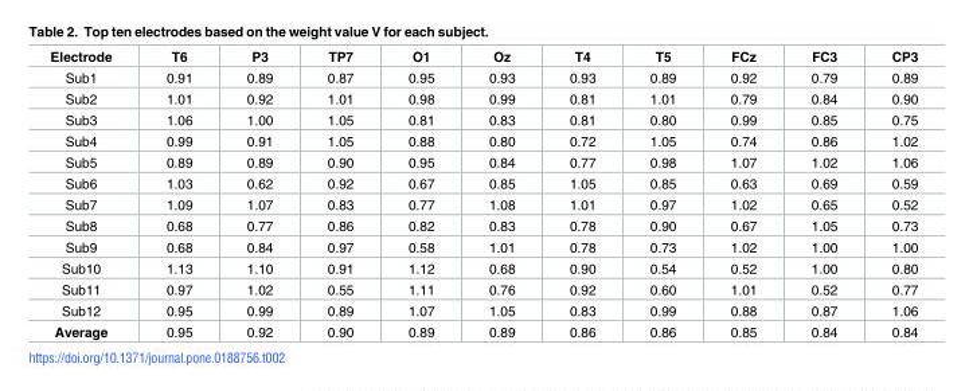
<table><thead><tr><td>Electrode</td><td>T6</td><td>P3</td><td>TP7</td><td>O1</td><td>Oz</td><td>T4</td><td>T5</td><td>FCz</td><td>FC3</td><td>CP3</td></tr></thead><tbody><tr><td>Sub1</td><td>0.91</td><td>0.89</td><td>0.87</td><td>0.95</td><td>0.93</td><td>0.93</td><td>0.89</td><td>0.92</td><td>0.79</td><td>0.89</td></tr><tr><td>Sub2</td><td>1.01</td><td>0.92</td><td>1.01</td><td>0.98</td><td>0.99</td><td>0.81</td><td>1.01</td><td>0.79</td><td>0.84</td><td>0.90</td></tr><tr><td>Sub3</td><td>1.06</td><td>1.00</td><td>1.05</td><td>0.81</td><td>0.83</td><td>0.81</td><td>0.80</td><td>0.99</td><td>0.85</td><td>0.75</td></tr><tr><td>Sub4</td><td>0.99</td><td>0.91</td><td>1.05</td><td>0.88</td><td>0.80</td><td>0.72</td><td>1.05</td><td>0.74</td><td>0.86</td><td>1.02</td></tr><tr><td>Sub5</td><td>0.89</td><td>0.89</td><td>0.90</td><td>0.95</td><td>0.84</td><td>0.77</td><td>0.98</td><td>1.07</td><td>1.02</td><td>1.06</td></tr><tr><td>Sub6</td><td>1.03</td><td>0.62</td><td>0.92</td><td>0.67</td><td>0.85</td><td>1.05</td><td>0.85</td><td>0.63</td><td>0.69</td><td>0.59</td></tr><tr><td>Sub7</td><td>1.09</td><td>1.07</td><td>0.83</td><td>0.77</td><td>1.08</td><td>1.01</td><td>0.97</td><td>1.02</td><td>0.65</td><td>0.52</td></tr><tr><td>Sub8</td><td>0.68</td><td>0.77</td><td>0.86</td><td>0.82</td><td>0.83</td><td>0.78</td><td>0.90</td><td>0.67</td><td>1.05</td><td>0.73</td></tr><tr><td>Sub9</td><td>0.68</td><td>0.84</td><td>0.97</td><td>0.58</td><td>1.01</td><td>0.78</td><td>0.73</td><td>1.02</td><td>1.00</td><td>1.00</td></tr><tr><td>Sub10</td><td>1.13</td><td>1.10</td><td>0.91</td><td>1.12</td><td>0.68</td><td>0.90</td><td>0.54</td><td>0.52</td><td>1.00</td><td>0.80</td></tr><tr><td>Sub11</td><td>0.97</td><td>1.02</td><td>0.55</td><td>1.11</td><td>0.76</td><td>0.92</td><td>0.60</td><td>1.01</td><td>0.52</td><td>0.77</td></tr><tr><td>Sub12</td><td>0.95</td><td>0.99</td><td>0.89</td><td>1.07</td><td>1.05</td><td>0.83</td><td>0.99</td><td>0.88</td><td>0.87</td><td>1.06</td></tr><tr><td>Average</td><td>0.95</td><td>0.92</td><td>0.90</td><td>0.89</td><td>0.89</td><td>0.86</td><td>0.86</td><td>0.85</td><td>0.84</td><td>0.84</td></tr></tbody></table>